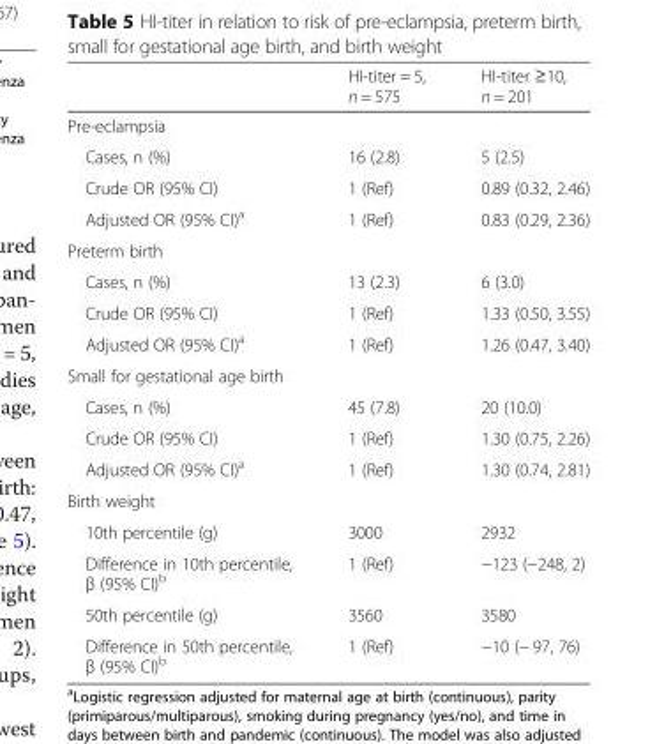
<table><thead><tr><td></td><td>HI-titer = 5, n = 575</td><td>HI-titer ≥10, n = 201</td></tr></thead><tbody><tr><td colspan="3">Pre-eclampsia</td></tr><tr><td>Cases, n (%)</td><td>16 (2.8)</td><td>5 (2.5)</td></tr><tr><td>Crude OR (95% CI)</td><td>1 (Ref)</td><td>0.89 (0.32, 2.46)</td></tr><tr><td>Adjusted OR (95% CI)<sup>a</sup></td><td>1 (Ref)</td><td>0.83 (0.29, 2.36)</td></tr><tr><td colspan="3">Preterm birth</td></tr><tr><td>Cases, n (%)</td><td>13 (2.3)</td><td>6 (3.0)</td></tr><tr><td>Crude OR (95% CI)</td><td>1 (Ref)</td><td>1.33 (0.50, 3.55)</td></tr><tr><td>Adjusted OR (95% CI)<sup>a</sup></td><td>1 (Ref)</td><td>1.26 (0.47, 3.40)</td></tr><tr><td colspan="3">Small for gestational age birth</td></tr><tr><td>Cases, n (%)</td><td>45 (7.8)</td><td>20 (10.0)</td></tr><tr><td>Crude OR (95% CI)</td><td>1 (Ref)</td><td>1.30 (0.75, 2.26)</td></tr><tr><td>Adjusted OR (95% CI)<sup>a</sup></td><td>1 (Ref)</td><td>1.30 (0.74, 2.81)</td></tr><tr><td colspan="3">Birth weight</td></tr><tr><td>10th percentile (g)</td><td>3000</td><td>2932</td></tr><tr><td>Difference in 10th percentile, β (95% CI)<sup>b</sup></td><td>1 (Ref)</td><td>−123 (−248, 2)</td></tr><tr><td>50th percentile (g)</td><td>3560</td><td>3580</td></tr><tr><td>Difference in 50th percentile, β (95% CI)<sup>b</sup></td><td>1 (Ref)</td><td>−10 (− 97, 76)</td></tr></tbody></table>